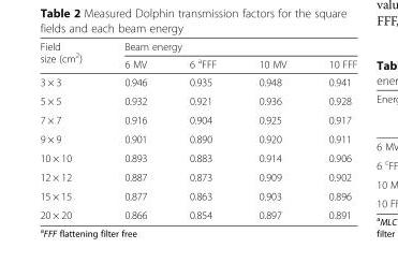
<table><thead><tr><td rowspan="2">Field size (cm<sup>2</sup>)</td><td colspan="4">Beam energy</td></tr><tr><td>6 MV</td><td>6 <sup>a</sup>FFF</td><td>10 MV</td><td>10 FFF</td></tr></thead><tbody><tr><td>3 × 3</td><td>0.946</td><td>0.935</td><td>0.948</td><td>0.941</td></tr><tr><td>5 × 5</td><td>0.932</td><td>0.921</td><td>0.936</td><td>0.928</td></tr><tr><td>7 × 7</td><td>0.916</td><td>0.904</td><td>0.925</td><td>0.917</td></tr><tr><td>9 × 9</td><td>0.901</td><td>0.890</td><td>0.920</td><td>0.911</td></tr><tr><td>10 × 10</td><td>0.893</td><td>0.883</td><td>0.914</td><td>0.906</td></tr><tr><td>12 × 12</td><td>0.887</td><td>0.873</td><td>0.909</td><td>0.902</td></tr><tr><td>15 × 15</td><td>0.877</td><td>0.863</td><td>0.903</td><td>0.896</td></tr><tr><td>20 × 20</td><td>0.866</td><td>0.854</td><td>0.897</td><td>0.891</td></tr></tbody></table>